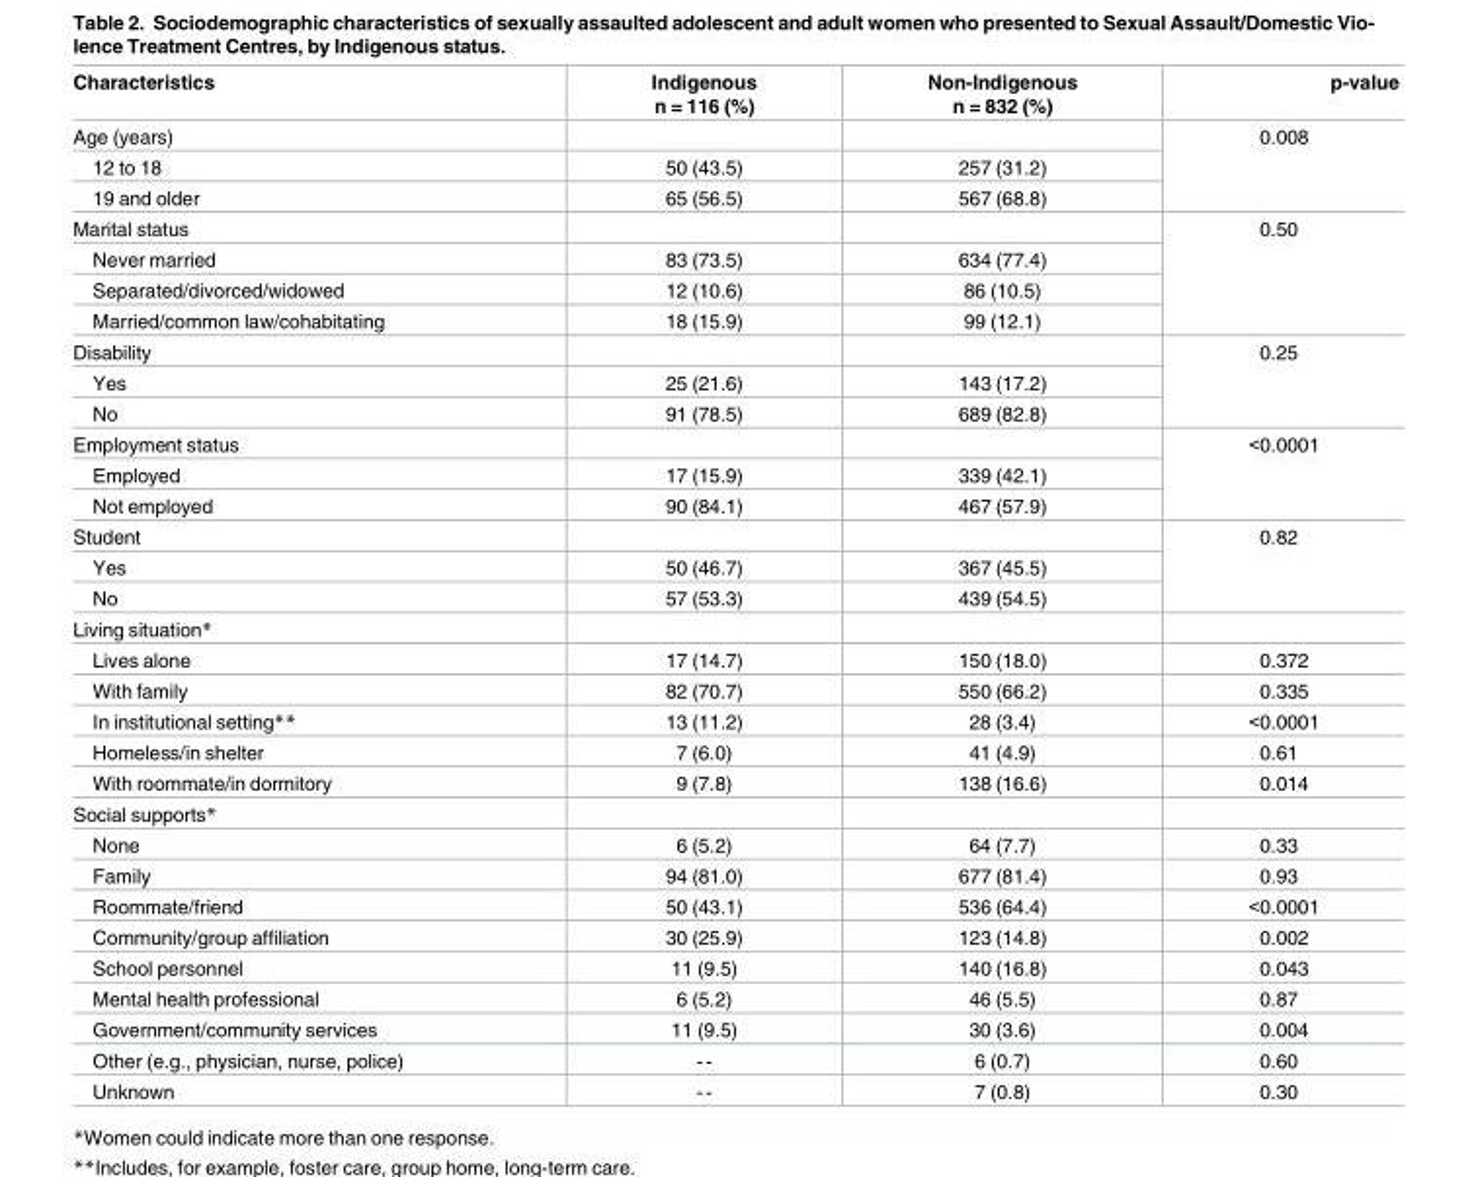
<table><thead><tr><td>Characteristics</td><td>Indigenous n = 116 (%)</td><td>Non-Indigenous n = 832 (%)</td><td>p-value</td></tr></thead><tbody><tr><td colspan="3">Age (years)</td><td rowspan="3">0.008</td></tr><tr><td>12 to 18</td><td>50 (43.5)</td><td>257 (31.2)</td></tr><tr><td>19 and older</td><td>65 (56.5)</td><td>567 (68.8)</td></tr><tr><td colspan="3">Marital status</td><td rowspan="4">0.50</td></tr><tr><td>Never married</td><td>83 (73.5)</td><td>634 (77.4)</td></tr><tr><td>Separated/divorced/widowed</td><td>12 (10.6)</td><td>86 (10.5)</td></tr><tr><td>Married/common law/cohabitating</td><td>18 (15.9)</td><td>99 (12.1)</td></tr><tr><td colspan="3">Disability</td><td rowspan="3">0.25</td></tr><tr><td>Yes</td><td>25 (21.6)</td><td>143 (17.2)</td></tr><tr><td>No</td><td>91 (78.5)</td><td>689 (82.8)</td></tr><tr><td colspan="3">Employment status</td><td rowspan="3">&lt;0.0001</td></tr><tr><td>Employed</td><td>17 (15.9)</td><td>339 (42.1)</td></tr><tr><td>Not employed</td><td>90 (84.1)</td><td>467 (57.9)</td></tr><tr><td colspan="3">Student</td><td rowspan="3">0.82</td></tr><tr><td>Yes</td><td>50 (46.7)</td><td>367 (45.5)</td></tr><tr><td>No</td><td>57 (53.3)</td><td>439 (54.5)</td></tr><tr><td colspan="4">Living situation*</td></tr><tr><td>Lives alone</td><td>17 (14.7)</td><td>150 (18.0)</td><td>0.372</td></tr><tr><td>With family</td><td>82 (70.7)</td><td>550 (66.2)</td><td>0.335</td></tr><tr><td>In institutional setting**</td><td>13 (11.2)</td><td>28 (3.4)</td><td>&lt;0.0001</td></tr><tr><td>Homeless/in shelter</td><td>7 (6.0)</td><td>41 (4.9)</td><td>0.61</td></tr><tr><td>With roommate/in dormitory</td><td>9 (7.8)</td><td>138 (16.6)</td><td>0.014</td></tr><tr><td colspan="4">Social supports*</td></tr><tr><td>None</td><td>6 (5.2)</td><td>64 (7.7)</td><td>0.33</td></tr><tr><td>Family</td><td>94 (81.0)</td><td>677 (81.4)</td><td>0.93</td></tr><tr><td>Roommate/friend</td><td>50 (43.1)</td><td>536 (64.4)</td><td>&lt;0.0001</td></tr><tr><td>Community/group affiliation</td><td>30 (25.9)</td><td>123 (14.8)</td><td>0.002</td></tr><tr><td>School personnel</td><td>11 (9.5)</td><td>140 (16.8)</td><td>0.043</td></tr><tr><td>Mental health professional</td><td>6 (5.2)</td><td>46 (5.5)</td><td>0.87</td></tr><tr><td>Government/community services</td><td>11 (9.5)</td><td>30 (3.6)</td><td>0.004</td></tr><tr><td>Other (e.g., physician, nurse, police)</td><td>--</td><td>6 (0.7)</td><td>0.60</td></tr><tr><td>Unknown</td><td>--</td><td>7 (0.8)</td><td>0.30</td></tr></tbody></table>